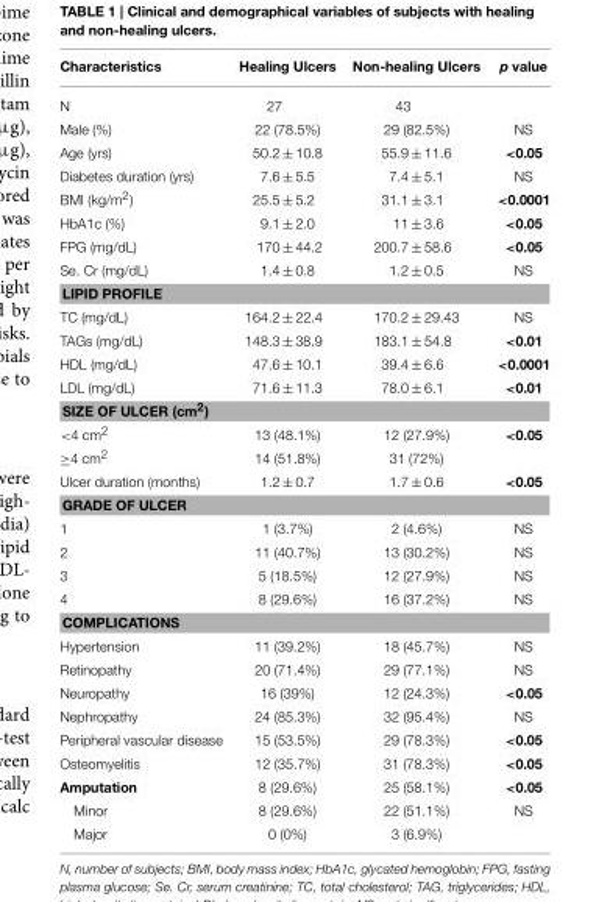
<table><thead><tr><td>Characteristics</td><td>Healing Ulcers</td><td>Non-healing Ulcers</td><td>p value</td></tr></thead><tbody><tr><td>N</td><td>27</td><td>43</td><td></td></tr><tr><td>Male (%)</td><td>22 (78.5%)</td><td>29 (82.5%)</td><td>NS</td></tr><tr><td>Age (yrs)</td><td>50.2 ± 10.8</td><td>55.9 ± 11.6</td><td>&lt;0.05</td></tr><tr><td>Diabetes duration (yrs)</td><td>7.6 ± 5.5</td><td>7.4 ± 5.1</td><td>NS</td></tr><tr><td>BMI (kg/m<sup>2</sup>)</td><td>25.5 ± 5.2</td><td>31.1 ± 3.1</td><td>&lt;0.0001</td></tr><tr><td>HbA1c (%)</td><td>9.1 ± 2.0</td><td>11 ± 3.6</td><td>&lt;0.05</td></tr><tr><td>FPG (mg/dL)</td><td>170 ± 44.2</td><td>200.7 ± 58.6</td><td>&lt;0.05</td></tr><tr><td>Se. Cr (mg/dL)</td><td>1.4 ± 0.8</td><td>1.2 ± 0.5</td><td>NS</td></tr><tr><td colspan="4">LIPID PROFILE</td></tr><tr><td>TC (mg/dL)</td><td>164.2 ± 22.4</td><td>170.2 ± 29.43</td><td>NS</td></tr><tr><td>TAGs (mg/dL)</td><td>148.3 ± 38.9</td><td>183.1 ± 54.8</td><td>&lt;0.01</td></tr><tr><td>HDL (mg/dL)</td><td>47.6 ± 10.1</td><td>39.4 ± 6.6</td><td>&lt;0.0001</td></tr><tr><td>LDL (mg/dL)</td><td>71.6 ± 11.3</td><td>78.0 ± 6.1</td><td>&lt;0.01</td></tr><tr><td colspan="4">SIZE OF ULCER (cm<sup>2</sup>)</td></tr><tr><td>&lt;4 cm<sup>2</sup></td><td>13 (48.1%)</td><td>12 (27.9%)</td><td>&lt;0.05</td></tr><tr><td>≥4 cm<sup>2</sup></td><td>14 (51.8%)</td><td>31 (72%)</td><td></td></tr><tr><td>Ulcer duration (months)</td><td>1.2 ± 0.7</td><td>1.7 ± 0.6</td><td>&lt;0.05</td></tr><tr><td colspan="4">GRADE OF ULCER</td></tr><tr><td>1</td><td>1 (3.7%)</td><td>2 (4.6%)</td><td>NS</td></tr><tr><td>2</td><td>11 (40.7%)</td><td>13 (30.2%)</td><td>NS</td></tr><tr><td>3</td><td>5 (18.5%)</td><td>12 (27.9%)</td><td>NS</td></tr><tr><td>4</td><td>8 (29.6%)</td><td>16 (37.2%)</td><td>NS</td></tr><tr><td colspan="4">COMPLICATIONS</td></tr><tr><td>Hypertension</td><td>11 (39.2%)</td><td>18 (45.7%)</td><td>NS</td></tr><tr><td>Retinopathy</td><td>20 (71.4%)</td><td>29 (77.1%)</td><td>NS</td></tr><tr><td>Neuropathy</td><td>16 (39%)</td><td>12 (24.3%)</td><td>&lt;0.05</td></tr><tr><td>Nephropathy</td><td>24 (85.3%)</td><td>32 (95.4%)</td><td>NS</td></tr><tr><td>Peripheral vascular disease</td><td>15 (53.5%)</td><td>29 (78.3%)</td><td>&lt;0.05</td></tr><tr><td>Osteomyelitis</td><td>12 (35.7%)</td><td>31 (78.3%)</td><td>&lt;0.05</td></tr><tr><td>Amputation</td><td>8 (29.6%)</td><td>25 (58.1%)</td><td>&lt;0.05</td></tr><tr><td>Minor</td><td>8 (29.6%)</td><td>22 (51.1%)</td><td>NS</td></tr><tr><td>Major</td><td>0 (0%)</td><td>3 (6.9%)</td><td></td></tr></tbody></table>